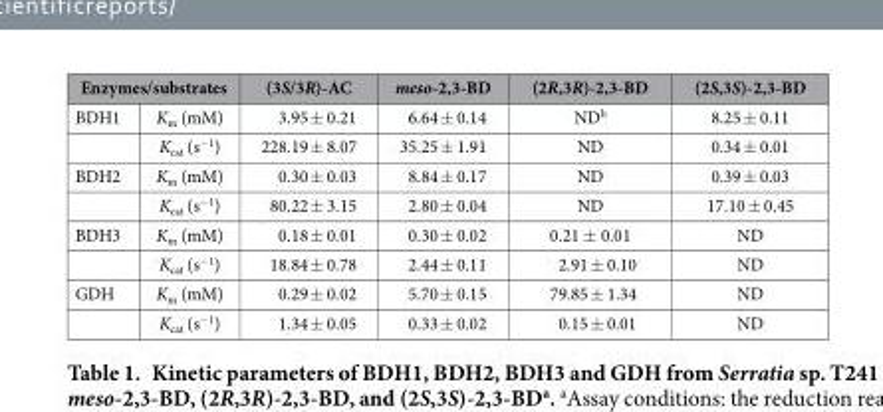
<table><thead><tr><td colspan="2">Enzymes/substrates</td><td rowspan="2">(3S/3R)-AC 3.95 ± 0.21</td><td rowspan="2">meso-2,3-BD 6.64 ± 0.14</td><td rowspan="2">(2R,3R)-2,3-BD ND<sup>b</sup></td><td rowspan="2">(2S,3S)-2,3-BD 8.25 ± 0.11</td></tr><tr><td>BDH1</td><td>K<sub>m</sub> (mM)</td></tr></thead><tbody><tr><td></td><td>K<sub>cat</sub> (s<sup>−1</sup>)</td><td>228.19 ± 8.07</td><td>35.25 ± 1.91</td><td>ND</td><td>0.34 ± 0.01</td></tr><tr><td rowspan="2">BDH2</td><td>K<sub>m</sub> (mM)</td><td>0.30 ± 0.03</td><td>8.84 ± 0.17</td><td>ND</td><td>0.39 ± 0.03</td></tr><tr><td>K<sub>cat</sub> (s<sup>−1</sup>)</td><td>80.22 ± 3.15</td><td>2.80 ± 0.04</td><td>ND</td><td>17.10 ± 0.45</td></tr><tr><td rowspan="2">BDH3</td><td>K<sub>m</sub> (mM)</td><td>0.18 ± 0.01</td><td>0.30 ± 0.02</td><td>0.21 ± 0.01</td><td>ND</td></tr><tr><td>K<sub>cat</sub> (s<sup>−1</sup>)</td><td>18.84 ± 0.78</td><td>2.44 ± 0.11</td><td>2.91 ± 0.10</td><td>ND</td></tr><tr><td rowspan="2">GDH</td><td>K<sub>m</sub> (mM)</td><td>0.29 ± 0.02</td><td>5.70 ± 0.15</td><td>79.85 ± 1.34</td><td>ND</td></tr><tr><td>K<sub>cat</sub> (s<sup>−1</sup>)</td><td>1.34 ± 0.05</td><td>0.33 ± 0.02</td><td>0.15 ± 0.01</td><td>ND</td></tr></tbody></table>